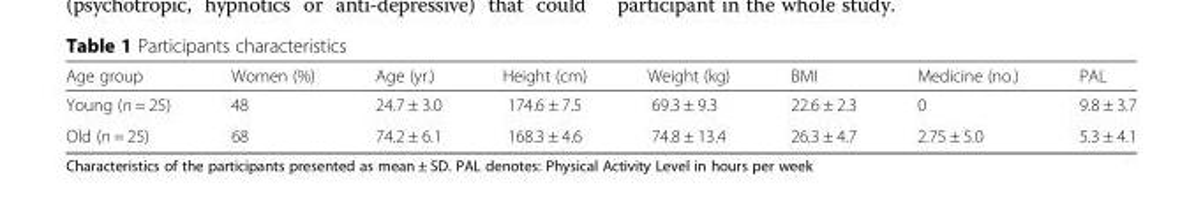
<table><thead><tr><td>Age group</td><td>Women (%)</td><td>Age (yr.)</td><td>Height (cm)</td><td>Weight (kg)</td><td>BMI</td><td>Medicine (no.)</td><td>PAL</td></tr></thead><tbody><tr><td>Young (n = 25)</td><td>48</td><td>24.7 ± 3.0</td><td>174.6 ± 7.5</td><td>69.3 ± 9.3</td><td>22.6 ± 2.3</td><td>0</td><td>9.8 ± 3.7</td></tr><tr><td>Old (n = 25)</td><td>68</td><td>74.2 ± 6.1</td><td>168.3 ± 4.6</td><td>74.8 ± 13.4</td><td>26.3 ± 4.7</td><td>2.75 ± 5.0</td><td>5.3 ± 4.1</td></tr></tbody></table>